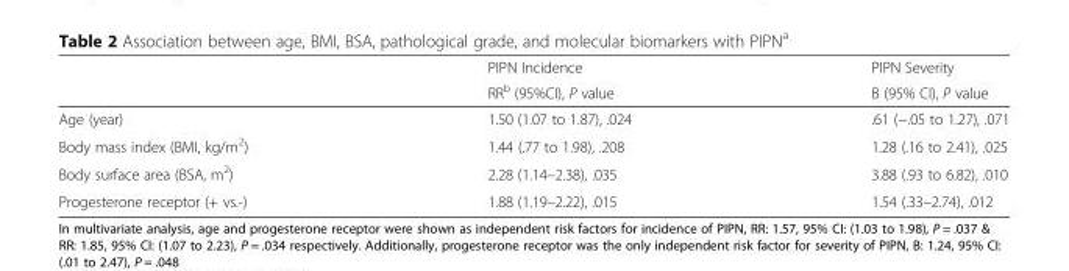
<table><thead><tr><td rowspan="2"></td><td rowspan="2">PIPN Incidence RR<sup>b</sup> (95%CI), P value</td><td rowspan="2">PIPN Severity B (95% CI), P value</td></tr><tr></tr></thead><tbody><tr><td>Age (year)</td><td>1.50 (1.07 to 1.87), .024</td><td>.61 (−.05 to 1.27), .071</td></tr><tr><td>Body mass index (BMI, kg/m<sup>2</sup>)</td><td>1.44 (.77 to 1.98), .208</td><td>1.28 (.16 to 2.41), .025</td></tr><tr><td>Body surface area (BSA, m<sup>2</sup>)</td><td>2.28 (1.14–2.38), .035</td><td>3.88 (.93 to 6.82), .010</td></tr><tr><td>Progesterone receptor (+ vs.-)</td><td>1.88 (1.19–2.22), .015</td><td>1.54 (.33–2.74), .012</td></tr></tbody></table>